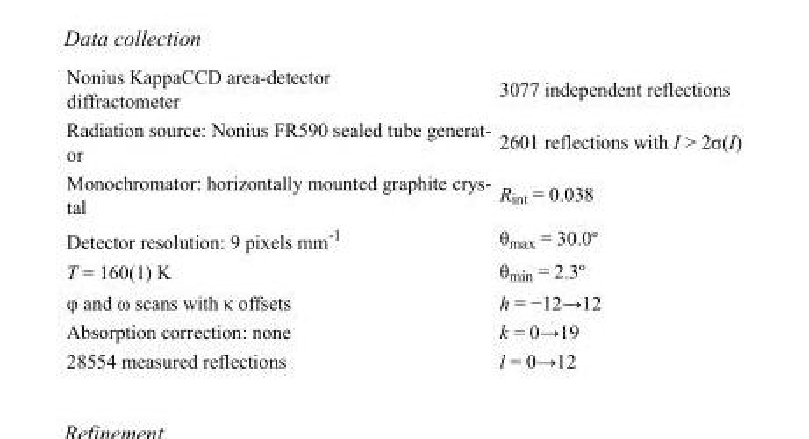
<table><tbody><tr><td>Nonius KappaCCD area-detector diffractometer</td><td>3077 independent reflections</td></tr><tr><td>Radiation source: Nonius FR590 sealed tube generat- or</td><td>2601 reflections with I &gt; 2σ(I)</td></tr><tr><td>Monochromator: horizontally mounted graphite crys- tal</td><td>R<sub>int</sub> = 0.038</td></tr><tr><td>Detector resolution: 9 pixels mm<sup>-1</sup></td><td>θ<sub>max</sub> = 30.0º</td></tr><tr><td>T = 160(1) K</td><td>θ<sub>min</sub> = 2.3º</td></tr><tr><td>φ and ω scans with κ offsets</td><td>h = −12→12</td></tr><tr><td>Absorption correction: none</td><td>k = 0→19</td></tr><tr><td>28554 measured reflections</td><td>l = 0→12</td></tr></tbody></table>